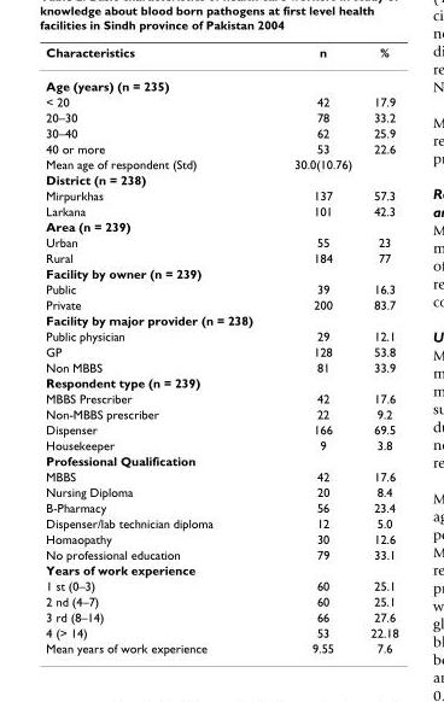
<table><thead><tr><td>Characteristics</td><td>n</td><td>%</td></tr></thead><tbody><tr><td colspan="3">Age (years) (n = 235)</td></tr><tr><td>&lt; 20</td><td>42</td><td>17.9</td></tr><tr><td>20–30</td><td>78</td><td>33.2</td></tr><tr><td>30–40</td><td>62</td><td>25.9</td></tr><tr><td>40 or more</td><td>53</td><td>22.6</td></tr><tr><td>Mean age of respondent (Std)</td><td>30.0(10.76)</td><td></td></tr><tr><td colspan="3">District (n = 238)</td></tr><tr><td>Mirpurkhas</td><td>137</td><td>57.3</td></tr><tr><td>Larkana</td><td>101</td><td>42.3</td></tr><tr><td colspan="3">Area (n = 239)</td></tr><tr><td>Urban</td><td>55</td><td>23</td></tr><tr><td>Rural</td><td>184</td><td>77</td></tr><tr><td colspan="3">Facility by owner (n = 239)</td></tr><tr><td>Public</td><td>39</td><td>16.3</td></tr><tr><td>Private</td><td>200</td><td>83.7</td></tr><tr><td colspan="3">Facility by major provider (n = 238)</td></tr><tr><td>Public physician</td><td>29</td><td>12.1</td></tr><tr><td>GP</td><td>128</td><td>53.8</td></tr><tr><td>Non MBBS</td><td>81</td><td>33.9</td></tr><tr><td colspan="3">Respondent type (n = 239)</td></tr><tr><td>MBBS Prescriber</td><td>42</td><td>17.6</td></tr><tr><td>Non-MBBS prescriber</td><td>22</td><td>9.2</td></tr><tr><td>Dispenser</td><td>166</td><td>69.5</td></tr><tr><td>Housekeeper</td><td>9</td><td>3.8</td></tr><tr><td colspan="3">Professional Qualification</td></tr><tr><td>MBBS</td><td>42</td><td>17.6</td></tr><tr><td>Nursing Diploma</td><td>20</td><td>8.4</td></tr><tr><td>B-Pharmacy</td><td>56</td><td>23.4</td></tr><tr><td>Dispenser/lab technician diploma</td><td>12</td><td>5.0</td></tr><tr><td>Homaopathy</td><td>30</td><td>12.6</td></tr><tr><td>No professional education</td><td>79</td><td>33.1</td></tr><tr><td colspan="3">Years of work experience</td></tr><tr><td>1 st (0–3)</td><td>60</td><td>25.1</td></tr><tr><td>2 nd (4–7)</td><td>60</td><td>25.1</td></tr><tr><td>3 rd (8–14)</td><td>66</td><td>27.6</td></tr><tr><td>4 (&gt; 14)</td><td>53</td><td>22.18</td></tr><tr><td>Mean years of work experience</td><td>9.55</td><td>7.6</td></tr></tbody></table>